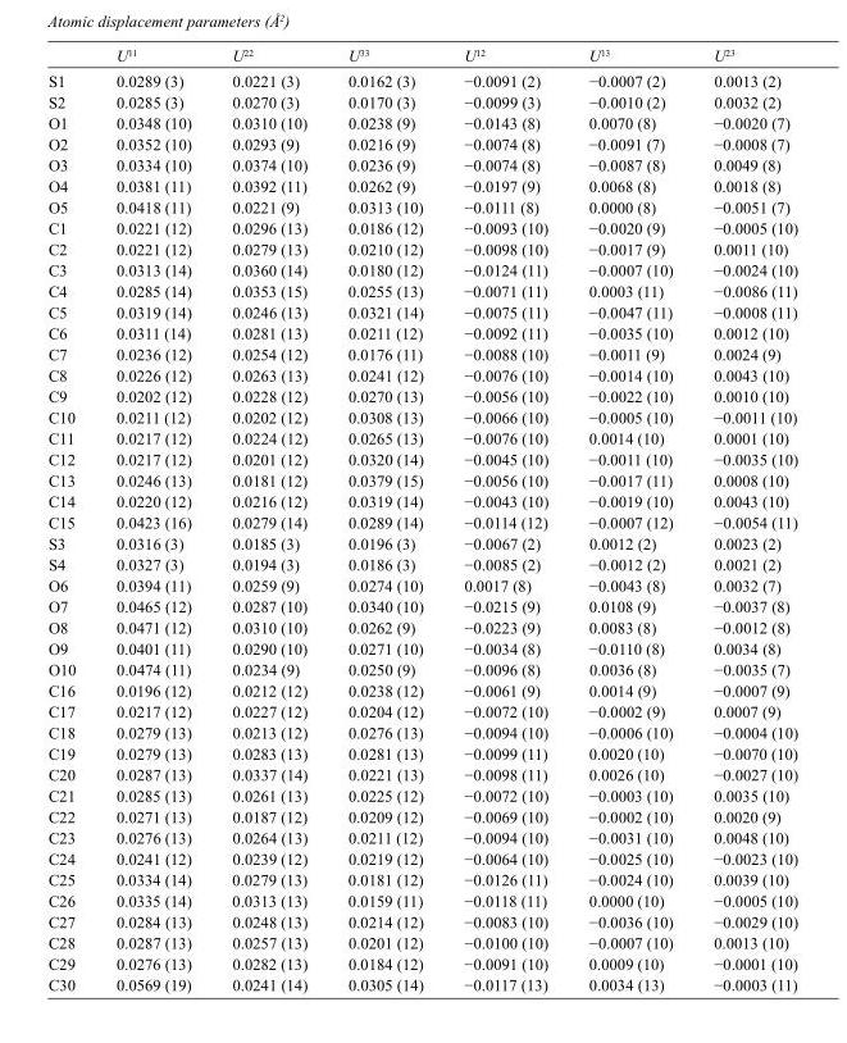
<table><thead><tr><td></td><td>U<sup>11</sup></td><td>U<sup>22</sup></td><td>U<sup>33</sup></td><td>U<sup>12</sup></td><td>U<sup>13</sup></td><td>U<sup>23</sup></td></tr></thead><tbody><tr><td>S1</td><td>0.0289 (3)</td><td>0.0221 (3)</td><td>0.0162 (3)</td><td>−0.0091 (2)</td><td>−0.0007 (2)</td><td>0.0013 (2)</td></tr><tr><td>S2</td><td>0.0285 (3)</td><td>0.0270 (3)</td><td>0.0170 (3)</td><td>−0.0099 (3)</td><td>−0.0010 (2)</td><td>0.0032 (2)</td></tr><tr><td>O1</td><td>0.0348 (10)</td><td>0.0310 (10)</td><td>0.0238 (9)</td><td>−0.0143 (8)</td><td>0.0070 (8)</td><td>−0.0020 (7)</td></tr><tr><td>O2</td><td>0.0352 (10)</td><td>0.0293 (9)</td><td>0.0216 (9)</td><td>−0.0074 (8)</td><td>−0.0091 (7)</td><td>−0.0008 (7)</td></tr><tr><td>O3</td><td>0.0334 (10)</td><td>0.0374 (10)</td><td>0.0236 (9)</td><td>−0.0074 (8)</td><td>−0.0087 (8)</td><td>0.0049 (8)</td></tr><tr><td>O4</td><td>0.0381 (11)</td><td>0.0392 (11)</td><td>0.0262 (9)</td><td>−0.0197 (9)</td><td>0.0068 (8)</td><td>0.0018 (8)</td></tr><tr><td>O5</td><td>0.0418 (11)</td><td>0.0221 (9)</td><td>0.0313 (10)</td><td>−0.0111 (8)</td><td>0.0000 (8)</td><td>−0.0051 (7)</td></tr><tr><td>C1</td><td>0.0221 (12)</td><td>0.0296 (13)</td><td>0.0186 (12)</td><td>−0.0093 (10)</td><td>−0.0020 (9)</td><td>−0.0005 (10)</td></tr><tr><td>C2</td><td>0.0221 (12)</td><td>0.0279 (13)</td><td>0.0210 (12)</td><td>−0.0098 (10)</td><td>−0.0017 (9)</td><td>0.0011 (10)</td></tr><tr><td>C3</td><td>0.0313 (14)</td><td>0.0360 (14)</td><td>0.0180 (12)</td><td>−0.0124 (11)</td><td>−0.0007 (10)</td><td>−0.0024 (10)</td></tr><tr><td>C4</td><td>0.0285 (14)</td><td>0.0353 (15)</td><td>0.0255 (13)</td><td>−0.0071 (11)</td><td>0.0003 (11)</td><td>−0.0086 (11)</td></tr><tr><td>C5</td><td>0.0319 (14)</td><td>0.0246 (13)</td><td>0.0321 (14)</td><td>−0.0075 (11)</td><td>−0.0047 (11)</td><td>−0.0008 (11)</td></tr><tr><td>C6</td><td>0.0311 (14)</td><td>0.0281 (13)</td><td>0.0211 (12)</td><td>−0.0092 (11)</td><td>−0.0035 (10)</td><td>0.0012 (10)</td></tr><tr><td>C7</td><td>0.0236 (12)</td><td>0.0254 (12)</td><td>0.0176 (11)</td><td>−0.0088 (10)</td><td>−0.0011 (9)</td><td>0.0024 (9)</td></tr><tr><td>C8</td><td>0.0226 (12)</td><td>0.0263 (13)</td><td>0.0241 (12)</td><td>−0.0076 (10)</td><td>−0.0014 (10)</td><td>0.0043 (10)</td></tr><tr><td>C9</td><td>0.0202 (12)</td><td>0.0228 (12)</td><td>0.0270 (13)</td><td>−0.0056 (10)</td><td>−0.0022 (10)</td><td>0.0010 (10)</td></tr><tr><td>C10</td><td>0.0211 (12)</td><td>0.0202 (12)</td><td>0.0308 (13)</td><td>−0.0066 (10)</td><td>−0.0005 (10)</td><td>−0.0011 (10)</td></tr><tr><td>C11</td><td>0.0217 (12)</td><td>0.0224 (12)</td><td>0.0265 (13)</td><td>−0.0076 (10)</td><td>0.0014 (10)</td><td>0.0001 (10)</td></tr><tr><td>C12</td><td>0.0217 (12)</td><td>0.0201 (12)</td><td>0.0320 (14)</td><td>−0.0045 (10)</td><td>−0.0011 (10)</td><td>−0.0035 (10)</td></tr><tr><td>C13</td><td>0.0246 (13)</td><td>0.0181 (12)</td><td>0.0379 (15)</td><td>−0.0056 (10)</td><td>−0.0017 (11)</td><td>0.0008 (10)</td></tr><tr><td>C14</td><td>0.0220 (12)</td><td>0.0216 (12)</td><td>0.0319 (14)</td><td>−0.0043 (10)</td><td>−0.0019 (10)</td><td>0.0043 (10)</td></tr><tr><td>C15</td><td>0.0423 (16)</td><td>0.0279 (14)</td><td>0.0289 (14)</td><td>−0.0114 (12)</td><td>−0.0007 (12)</td><td>−0.0054 (11)</td></tr><tr><td>S3</td><td>0.0316 (3)</td><td>0.0185 (3)</td><td>0.0196 (3)</td><td>−0.0067 (2)</td><td>0.0012 (2)</td><td>0.0023 (2)</td></tr><tr><td>S4</td><td>0.0327 (3)</td><td>0.0194 (3)</td><td>0.0186 (3)</td><td>−0.0085 (2)</td><td>−0.0012 (2)</td><td>0.0021 (2)</td></tr><tr><td>O6</td><td>0.0394 (11)</td><td>0.0259 (9)</td><td>0.0274 (10)</td><td>0.0017 (8)</td><td>−0.0043 (8)</td><td>0.0032 (7)</td></tr><tr><td>O7</td><td>0.0465 (12)</td><td>0.0287 (10)</td><td>0.0340 (10)</td><td>−0.0215 (9)</td><td>0.0108 (9)</td><td>−0.0037 (8)</td></tr><tr><td>O8</td><td>0.0471 (12)</td><td>0.0310 (10)</td><td>0.0262 (9)</td><td>−0.0223 (9)</td><td>0.0083 (8)</td><td>−0.0012 (8)</td></tr><tr><td>O9</td><td>0.0401 (11)</td><td>0.0290 (10)</td><td>0.0271 (10)</td><td>−0.0034 (8)</td><td>−0.0110 (8)</td><td>0.0034 (8)</td></tr><tr><td>O10</td><td>0.0474 (11)</td><td>0.0234 (9)</td><td>0.0250 (9)</td><td>−0.0096 (8)</td><td>0.0036 (8)</td><td>−0.0035 (7)</td></tr><tr><td>C16</td><td>0.0196 (12)</td><td>0.0212 (12)</td><td>0.0238 (12)</td><td>−0.0061 (9)</td><td>0.0014 (9)</td><td>−0.0007 (9)</td></tr><tr><td>C17</td><td>0.0217 (12)</td><td>0.0227 (12)</td><td>0.0204 (12)</td><td>−0.0072 (10)</td><td>−0.0002 (9)</td><td>0.0007 (9)</td></tr><tr><td>C18</td><td>0.0279 (13)</td><td>0.0213 (12)</td><td>0.0276 (13)</td><td>−0.0094 (10)</td><td>−0.0006 (10)</td><td>−0.0004 (10)</td></tr><tr><td>C19</td><td>0.0279 (13)</td><td>0.0283 (13)</td><td>0.0281 (13)</td><td>−0.0099 (11)</td><td>0.0020 (10)</td><td>−0.0070 (10)</td></tr><tr><td>C20</td><td>0.0287 (13)</td><td>0.0337 (14)</td><td>0.0221 (13)</td><td>−0.0098 (11)</td><td>0.0026 (10)</td><td>−0.0027 (10)</td></tr><tr><td>C21</td><td>0.0285 (13)</td><td>0.0261 (13)</td><td>0.0225 (12)</td><td>−0.0072 (10)</td><td>−0.0003 (10)</td><td>0.0035 (10)</td></tr><tr><td>C22</td><td>0.0271 (13)</td><td>0.0187 (12)</td><td>0.0209 (12)</td><td>−0.0069 (10)</td><td>−0.0002 (10)</td><td>0.0020 (9)</td></tr><tr><td>C23</td><td>0.0276 (13)</td><td>0.0264 (13)</td><td>0.0211 (12)</td><td>−0.0094 (10)</td><td>−0.0031 (10)</td><td>0.0048 (10)</td></tr><tr><td>C24</td><td>0.0241 (12)</td><td>0.0239 (12)</td><td>0.0219 (12)</td><td>−0.0064 (10)</td><td>−0.0025 (10)</td><td>−0.0023 (10)</td></tr><tr><td>C25</td><td>0.0334 (14)</td><td>0.0279 (13)</td><td>0.0181 (12)</td><td>−0.0126 (11)</td><td>−0.0024 (10)</td><td>0.0039 (10)</td></tr><tr><td>C26</td><td>0.0335 (14)</td><td>0.0313 (13)</td><td>0.0159 (11)</td><td>−0.0118 (11)</td><td>0.0000 (10)</td><td>−0.0005 (10)</td></tr><tr><td>C27</td><td>0.0284 (13)</td><td>0.0248 (13)</td><td>0.0214 (12)</td><td>−0.0083 (10)</td><td>−0.0036 (10)</td><td>−0.0029 (10)</td></tr><tr><td>C28</td><td>0.0287 (13)</td><td>0.0257 (13)</td><td>0.0201 (12)</td><td>−0.0100 (10)</td><td>−0.0007 (10)</td><td>0.0013 (10)</td></tr><tr><td>C29</td><td>0.0276 (13)</td><td>0.0282 (13)</td><td>0.0184 (12)</td><td>−0.0091 (10)</td><td>0.0009 (10)</td><td>−0.0001 (10)</td></tr><tr><td>C30</td><td>0.0569 (19)</td><td>0.0241 (14)</td><td>0.0305 (14)</td><td>−0.0117 (13)</td><td>0.0034 (13)</td><td>−0.0003 (11)</td></tr></tbody></table>